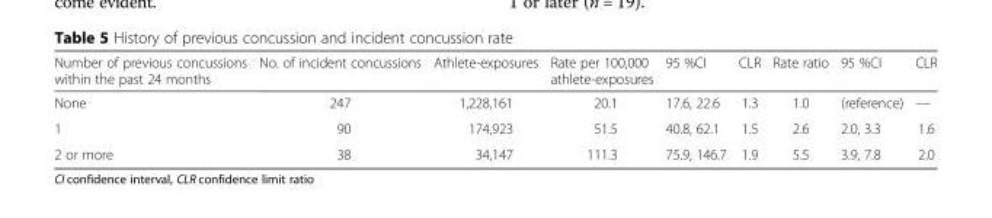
<table><thead><tr><td>Number of previous concussions within the past 24 months</td><td>No. of incident concussions</td><td>Athlete-exposures</td><td>Rate per 100,000 athlete-exposures</td><td>95 %CI</td><td>CLR</td><td>Rate ratio</td><td>95 %CI</td><td>CLR</td></tr></thead><tbody><tr><td>None</td><td>247</td><td>1,228,161</td><td>20.1</td><td>17.6, 22.6</td><td>1.3</td><td>1.0</td><td>(reference)</td><td>––</td></tr><tr><td>1</td><td>90</td><td>174,923</td><td>51.5</td><td>40.8, 62.1</td><td>1.5</td><td>2.6</td><td>2.0, 3.3</td><td>1.6</td></tr><tr><td>2 or more</td><td>38</td><td>34,147</td><td>111.3</td><td>75.9, 146.7</td><td>1.9</td><td>5.5</td><td>3.9, 7.8</td><td>2.0</td></tr></tbody></table>